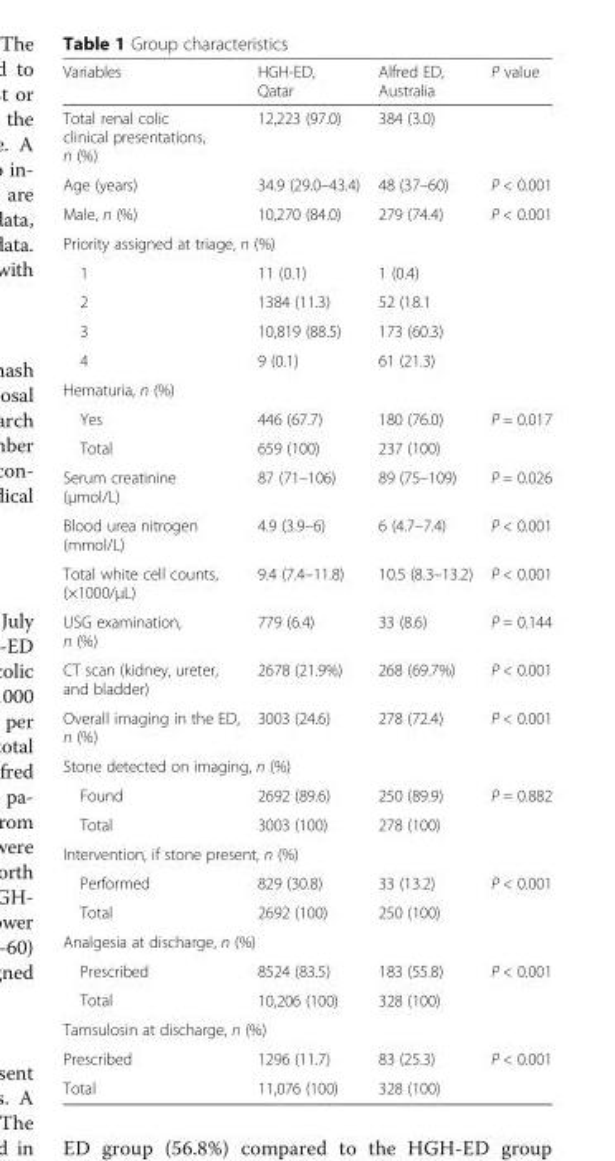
<table><thead><tr><td>Variables</td><td>HGH-ED, Qatar</td><td>Alfred ED, Australia</td><td>P value</td></tr></thead><tbody><tr><td>Total renal colic clinical presentations, n (%)</td><td>12,223 (97.0)</td><td>384 (3.0)</td><td></td></tr><tr><td>Age (years)</td><td>34.9 (29.0–43.4)</td><td>48 (37–60)</td><td>P &lt; 0.001</td></tr><tr><td>Male, n (%)</td><td>10,270 (84.0)</td><td>279 (74.4)</td><td>P &lt; 0.001</td></tr><tr><td colspan="4">Priority assigned at triage, n (%)</td></tr><tr><td>1</td><td>11 (0.1)</td><td>1 (0.4)</td><td></td></tr><tr><td>2</td><td>1384 (11.3)</td><td>52 (18.1</td><td></td></tr><tr><td>3</td><td>10,819 (88.5)</td><td>173 (60.3)</td><td></td></tr><tr><td>4</td><td>9 (0.1)</td><td>61 (21.3)</td><td></td></tr><tr><td colspan="4">Hematuria, n (%)</td></tr><tr><td>Yes</td><td>446 (67.7)</td><td>180 (76.0)</td><td>P = 0.017</td></tr><tr><td>Total</td><td>659 (100)</td><td>237 (100)</td><td></td></tr><tr><td>Serum creatinine (μmol/L)</td><td>87 (71–106)</td><td>89 (75–109)</td><td>P = 0.026</td></tr><tr><td>Blood urea nitrogen (mmol/L)</td><td>4.9 (3.9–6)</td><td>6 (4.7–7.4)</td><td>P &lt; 0.001</td></tr><tr><td>Total white cell counts, (×1000/μL)</td><td>9.4 (7.4–11.8)</td><td>10.5 (8.3–13.2)</td><td>P &lt; 0.001</td></tr><tr><td>USG examination, n (%)</td><td>779 (6.4)</td><td>33 (8.6)</td><td>P = 0.144</td></tr><tr><td>CT scan (kidney, ureter, and bladder)</td><td>2678 (21.9%)</td><td>268 (69.7%)</td><td>P &lt; 0.001</td></tr><tr><td>Overall imaging in the ED, n (%)</td><td>3003 (24.6)</td><td>278 (72.4)</td><td>P &lt; 0.001</td></tr><tr><td colspan="4">Stone detected on imaging, n (%)</td></tr><tr><td>Found</td><td>2692 (89.6)</td><td>250 (89.9)</td><td>P = 0.882</td></tr><tr><td>Total</td><td>3003 (100)</td><td>278 (100)</td><td></td></tr><tr><td colspan="4">Intervention, if stone present, n (%)</td></tr><tr><td>Performed</td><td>829 (30.8)</td><td>33 (13.2)</td><td>P &lt; 0.001</td></tr><tr><td>Total</td><td>2692 (100)</td><td>250 (100)</td><td></td></tr><tr><td colspan="4">Analgesia at discharge, n (%)</td></tr><tr><td>Prescribed</td><td>8524 (83.5)</td><td>183 (55.8)</td><td>P &lt; 0.001</td></tr><tr><td>Total</td><td>10,206 (100)</td><td>328 (100)</td><td></td></tr><tr><td colspan="4">Tamsulosin at discharge, n (%)</td></tr><tr><td>Prescribed</td><td>1296 (11.7)</td><td>83 (25.3)</td><td>P &lt; 0.001</td></tr><tr><td>Total</td><td>11,076 (100)</td><td>328 (100)</td><td></td></tr></tbody></table>